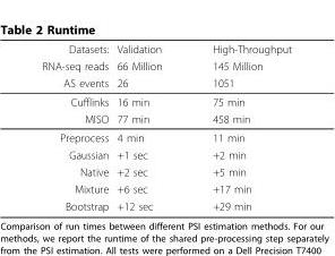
<table><thead><tr><td rowspan="3">Datasets: RNA-seq reads AS events</td><td rowspan="3">Validation 66 Million 26</td><td rowspan="3">High-Throughput 145 Million 1051</td></tr><tr></tr><tr></tr></thead><tbody><tr><td>Cufflinks</td><td>16 min</td><td>75 min</td></tr><tr><td>MISO</td><td>77 min</td><td>458 min</td></tr><tr><td>Preprocess</td><td>4 min</td><td>11 min</td></tr><tr><td>Gaussian</td><td>+1 sec</td><td>+2 min</td></tr><tr><td>Native</td><td>+2 sec</td><td>+5 min</td></tr><tr><td>Mixture</td><td>+6 sec</td><td>+17 min</td></tr><tr><td>Bootstrap</td><td>+12 sec</td><td>+29 min</td></tr></tbody></table>